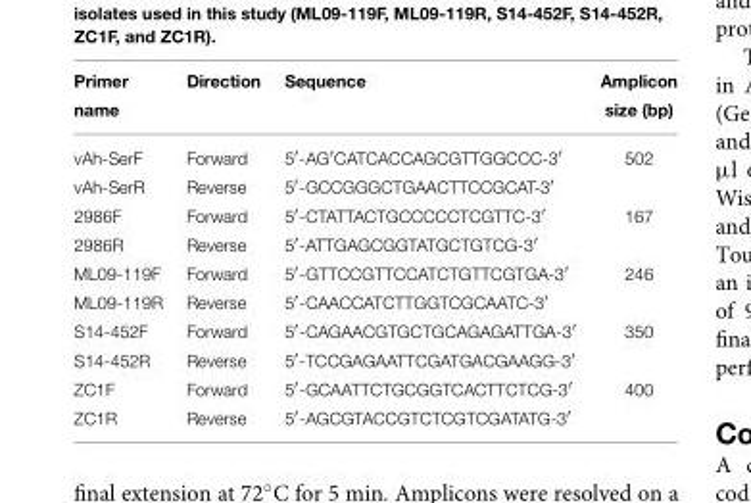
<table><thead><tr><td>Primer name</td><td>Direction</td><td>Sequence</td><td>Amplicon size (bp)</td></tr></thead><tbody><tr><td>vAh-SerF</td><td>Forward</td><td>5′-AG′CATCACCAGCGTTGGCCC-3′</td><td>502</td></tr><tr><td>vAh-SerR</td><td>Reverse</td><td>5′-GCCGGGCTGAACTTCCGCAT-3′</td><td></td></tr><tr><td>2986F</td><td>Forward</td><td>5′-CTATTACTGCCCCCTCGTTC-3′</td><td>167</td></tr><tr><td>2986R</td><td>Reverse</td><td>5′-ATTGAGCGGTATGCTGTCG-3′</td><td></td></tr><tr><td>ML09-119F</td><td>Forward</td><td>5′-GTTCCGTTCCATCTGTTCGTGA-3′</td><td>246</td></tr><tr><td>ML09-119R</td><td>Reverse</td><td>5′-CAACCATCTTGGTCGCAATC-3′</td><td></td></tr><tr><td>S14-452F</td><td>Forward</td><td>5′-CAGAACGTGCTGCAGAGATTGA-3′</td><td>350</td></tr><tr><td>S14-452R</td><td>Reverse</td><td>5′-TCCGAGAATTCGATGACGAAGG-3′</td><td></td></tr><tr><td>ZC1F</td><td>Forward</td><td>5′-GCAATTCTGCGGTCACTTCTCG-3′</td><td>400</td></tr><tr><td>ZC1R</td><td>Reverse</td><td>5′-AGCGTACCGTCTCGTCGATATG-3′</td><td></td></tr></tbody></table>